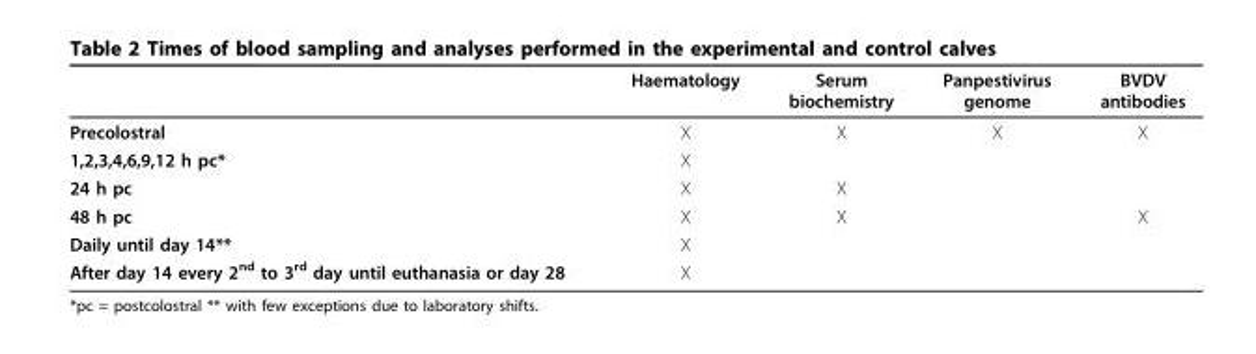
<table><thead><tr><td></td><td>Haematology</td><td>Serum biochemistry</td><td>Panpestivirus genome</td><td>BVDV antibodies</td></tr></thead><tbody><tr><td>Precolostral</td><td>X</td><td>X</td><td>X</td><td>X</td></tr><tr><td>1,2,3,4,6,9,12 h pc*</td><td>X</td><td></td><td></td><td></td></tr><tr><td>24 h pc</td><td>X</td><td>X</td><td></td><td></td></tr><tr><td>48 h pc</td><td>X</td><td>X</td><td></td><td>X</td></tr><tr><td>Daily until day 14**</td><td>X</td><td></td><td></td><td></td></tr><tr><td>After day 14 every 2<sup>nd</sup> to 3<sup>rd</sup> day until euthanasia or day 28</td><td>X</td><td></td><td></td><td></td></tr></tbody></table>